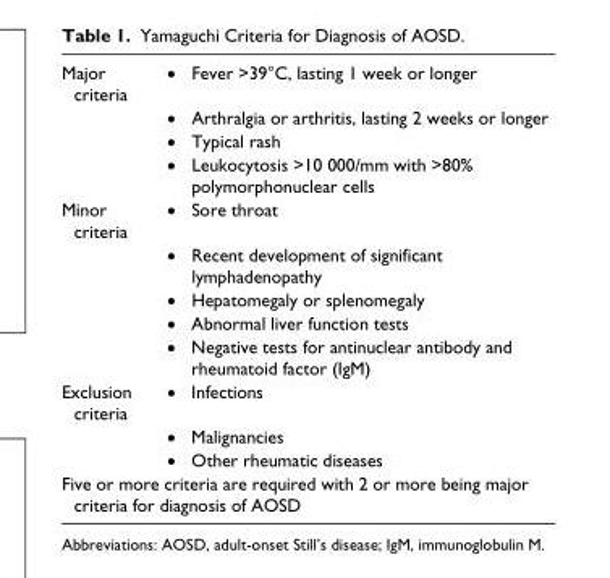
<table><tbody><tr><td rowspan="4">Major criteria</td><td>•• Fever &gt;39°C, lasting 1 week or longer</td></tr><tr><td>•• Arthralgia or arthritis, lasting 2 weeks or longer</td></tr><tr><td>•• Typical rash</td></tr><tr><td>•• Leukocytosis &gt;10 000/mm with &gt;80% polymorphonuclear cells</td></tr><tr><td rowspan="5">Minor criteria</td><td>•• Sore throat</td></tr><tr><td>•• Recent development of significant lymphadenopathy</td></tr><tr><td>•• Hepatomegaly or splenomegaly</td></tr><tr><td>•• Abnormal liver function tests</td></tr><tr><td>•• Negative tests for antinuclear antibody and rheumatoid factor (IgM)</td></tr><tr><td rowspan="3">Exclusion criteria</td><td>•• Infections</td></tr><tr><td>•• Malignancies</td></tr><tr><td>•• Other rheumatic diseases</td></tr><tr><td colspan="2">Five or more criteria are required with 2 or more being major criteria for diagnosis of AOSD</td></tr></tbody></table>